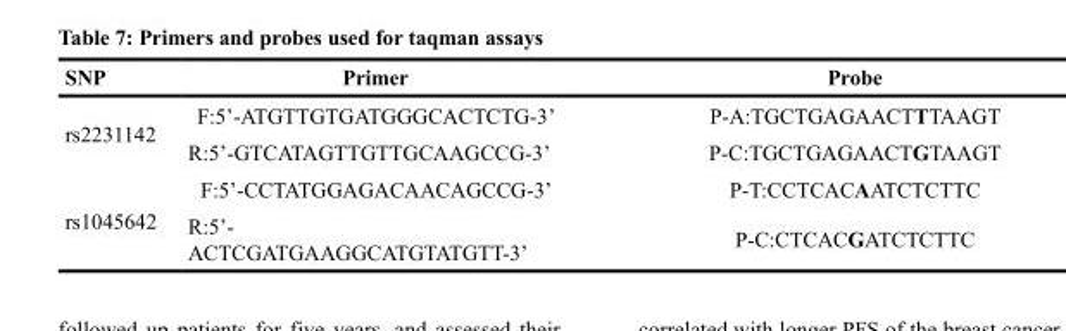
<table><thead><tr><td>SNP</td><td>Primer</td><td>Probe</td></tr></thead><tbody><tr><td rowspan="2">rs2231142</td><td>F:5’-ATGTTGTGATGGGCACTCTG-3’</td><td>P-A:TGCTGAGAACTTTAAGT</td></tr><tr><td>R:5’-GTCATAGTTGTTGCAAGCCG-3’</td><td>P-C:TGCTGAGAACTGTAAGT</td></tr><tr><td rowspan="2">rs1045642</td><td>F:5’-CCTATGGAGACAACAGCCG-3’</td><td>P-T:CCTCACAATCTCTTC</td></tr><tr><td>R:5’- ACTCGATGAAGGCATGTATGTT-3’</td><td>P-C:CTCACGATCTCTTC</td></tr></tbody></table>